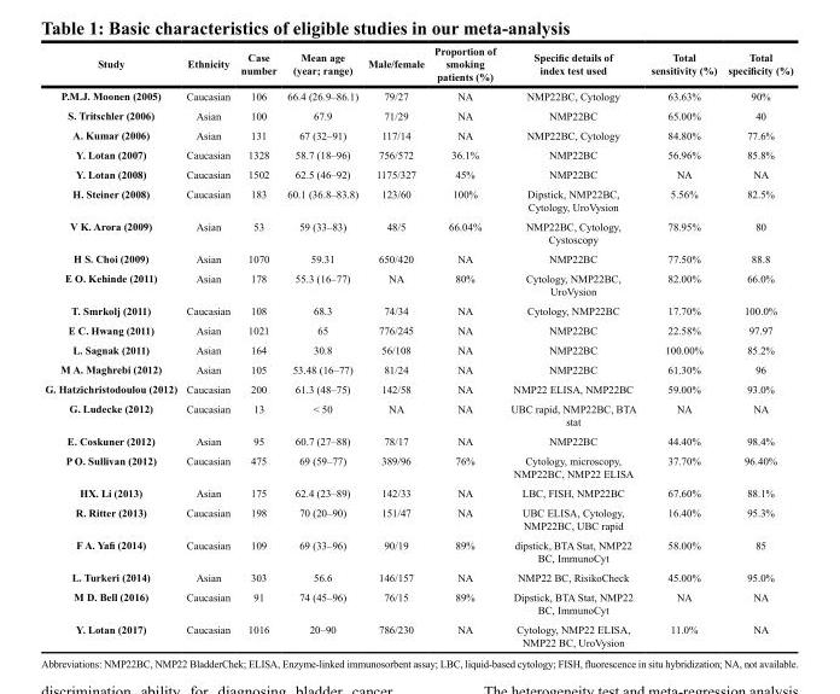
<table><thead><tr><td>Study</td><td>Ethnicity</td><td>Case number</td><td>Mean age (year; range)</td><td>Male/female</td><td>Proportion of smoking patients (%)</td><td>Specific details of index test used</td><td>Total sensitivity (%)</td><td>Total specificity (%)</td></tr></thead><tbody><tr><td>P.M.J. Moonen (2005)</td><td>Caucasian</td><td>106</td><td>66.4 (26.9–86.1)</td><td>79/27</td><td>NA</td><td>NMP22BC, Cytology</td><td>63.63%</td><td>90%</td></tr><tr><td>S. Tritschler (2006)</td><td>Asian</td><td>100</td><td>67.9</td><td>71/29</td><td>NA</td><td>NMP22BC</td><td>65.00%</td><td>40</td></tr><tr><td>A. Kumar (2006)</td><td>Asian</td><td>131</td><td>67 (32–91)</td><td>117/14</td><td>NA</td><td>NMP22BC, Cytology</td><td>84.80%</td><td>77.6%</td></tr><tr><td>Y. Lotan (2007)</td><td>Caucasian</td><td>1328</td><td>58.7 (18–96)</td><td>756/572</td><td>36.1%</td><td>NMP22BC</td><td>56.96%</td><td>85.8%</td></tr><tr><td>Y. Lotan (2008)</td><td>Caucasian</td><td>1502</td><td>62.5 (46–92)</td><td>1175/327</td><td>45%</td><td>NMP22BC</td><td>NA</td><td>NA</td></tr><tr><td>H. Steiner (2008)</td><td>Caucasian</td><td>183</td><td>60.1 (36.8–83.8)</td><td>123/60</td><td>100%</td><td>Dipstick, NMP22BC, Cytology, UroVysion</td><td>5.56%</td><td>82.5%</td></tr><tr><td>V K. Arora (2009)</td><td>Asian</td><td>53</td><td>59 (33–83)</td><td>48/5</td><td>66.04%</td><td>NMP22BC, Cytology, Cystoscopy</td><td>78.95%</td><td>80</td></tr><tr><td>H S. Choi (2009)</td><td>Asian</td><td>1070</td><td>59.31</td><td>650/420</td><td>NA</td><td>NMP22BC</td><td>77.50%</td><td>88.8</td></tr><tr><td>E O. Kehinde (2011)</td><td>Asian</td><td>178</td><td>55.3 (16–77)</td><td>NA</td><td>80%</td><td>Cytology, NMP22BC, UroVysion</td><td>82.00%</td><td>66.0%</td></tr><tr><td>T. Smrkolj (2011)</td><td>Caucasian</td><td>108</td><td>68.3</td><td>74/34</td><td>NA</td><td>Cytology, NMP22BC</td><td>17.70%</td><td>100.0%</td></tr><tr><td>E C. Hwang (2011)</td><td>Asian</td><td>1021</td><td>65</td><td>776/245</td><td>NA</td><td>NMP22BC</td><td>22.58%</td><td>97.97</td></tr><tr><td>L. Sagnak (2011)</td><td>Asian</td><td>164</td><td>30.8</td><td>56/108</td><td>NA</td><td>NMP22BC</td><td>100.00%</td><td>85.2%</td></tr><tr><td>M A. Maghrebi (2012)</td><td>Asian</td><td>105</td><td>53.48 (16–77)</td><td>81/24</td><td>NA</td><td>NMP22BC</td><td>61.30%</td><td>96</td></tr><tr><td>G. Hatzichristodoulou (2012)</td><td>Caucasian</td><td>200</td><td>61.3 (48–75)</td><td>142/58</td><td>NA</td><td>NMP22 ELISA, NMP22BC</td><td>59.00%</td><td>93.0%</td></tr><tr><td>G. Ludecke (2012)</td><td>Caucasian</td><td>13</td><td>&lt; 50</td><td>NA</td><td>NA</td><td>UBC rapid, NMP22BC, BTA stat</td><td>NA</td><td>NA</td></tr><tr><td>E. Coskuner (2012)</td><td>Asian</td><td>95</td><td>60.7 (27–88)</td><td>78/17</td><td>NA</td><td>NMP22BC</td><td>44.40%</td><td>98.4%</td></tr><tr><td>P O. Sullivan (2012)</td><td>Caucasian</td><td>475</td><td>69 (59–77)</td><td>389/96</td><td>76%</td><td>Cytology, microscopy, NMP22BC, NMP22 ELISA</td><td>37.70%</td><td>96.40%</td></tr><tr><td>HX. Li (2013)</td><td>Asian</td><td>175</td><td>62.4 (23–89)</td><td>142/33</td><td>NA</td><td>LBC, FISH, NMP22BC</td><td>67.60%</td><td>88.1%</td></tr><tr><td>R. Ritter (2013)</td><td>Caucasian</td><td>198</td><td>70 (20–90)</td><td>151/47</td><td>NA</td><td>UBC ELISA, Cytology, NMP22BC, UBC rapid</td><td>16.40%</td><td>95.3%</td></tr><tr><td>F A. Yafi (2014)</td><td>Caucasian</td><td>109</td><td>69 (33–96)</td><td>90/19</td><td>89%</td><td>dipstick, BTA Stat, NMP22 BC, ImmunoCyt</td><td>58.00%</td><td>85</td></tr><tr><td>L. Turkeri (2014)</td><td>Asian</td><td>303</td><td>56.6</td><td>146/157</td><td>NA</td><td>NMP22 BC, RisikoCheck</td><td>45.00%</td><td>95.0%</td></tr><tr><td>M D. Bell (2016)</td><td>Caucasian</td><td>91</td><td>74 (45–96)</td><td>76/15</td><td>89%</td><td>Dipstick, BTA Stat, NMP22 BC, ImmunoCyt</td><td>NA</td><td>NA</td></tr><tr><td>Y. Lotan (2017)</td><td>Caucasian</td><td>1016</td><td>20–90</td><td>786/230</td><td>NA</td><td>Cytology, NMP22 ELISA, NMP22 BC, UroVysion</td><td>11.0%</td><td>NA</td></tr></tbody></table>